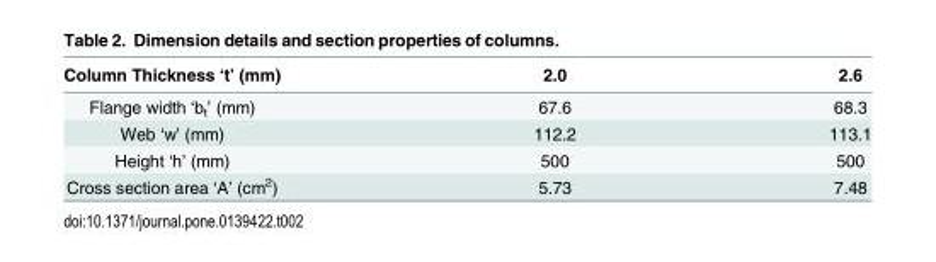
<table><thead><tr><td>Column Thickness ‘t’ (mm)</td><td>2.0</td><td>2.6</td></tr></thead><tbody><tr><td>Flange width ‘b<sub>t</sub>’ (mm)</td><td>67.6</td><td>68.3</td></tr><tr><td>Web ‘w’ (mm)</td><td>112.2</td><td>113.1</td></tr><tr><td>Height ‘h’ (mm)</td><td>500</td><td>500</td></tr><tr><td>Cross section area ‘A’ (cm<sup>2</sup>)</td><td>5.73</td><td>7.48</td></tr></tbody></table>